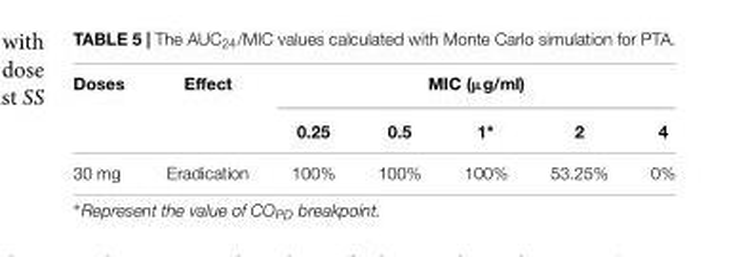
<table><thead><tr><td rowspan="2">Doses</td><td rowspan="2">Effect</td><td colspan="5">MIC (µg/ml)</td></tr><tr><td>0.25</td><td>0.5</td><td>1∗</td><td>2</td><td>4</td></tr></thead><tbody><tr><td>30 mg</td><td>Eradication</td><td>100%</td><td>100%</td><td>100%</td><td>53.25%</td><td>0%</td></tr></tbody></table>